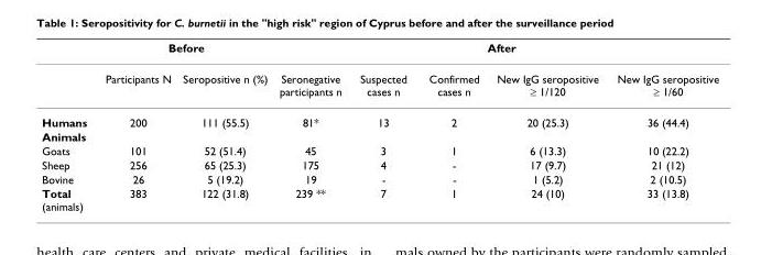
<table><thead><tr><td rowspan="2"></td><td colspan="2">Before</td><td colspan="5">After</td></tr><tr><td>Participants N</td><td>Seropositive n (%)</td><td>Seronegative participants n</td><td>Suspected cases n</td><td>Confirmed cases n</td><td>New IgG seropositive ≥ 1/120</td><td>New IgG seropositive ≥ 1/60</td></tr></thead><tbody><tr><td>Humans</td><td>200</td><td>111 (55.5)</td><td>81*</td><td>13</td><td>2</td><td>20 (25.3)</td><td>36 (44.4)</td></tr><tr><td colspan="8">Animals</td></tr><tr><td>Goats</td><td>101</td><td>52 (51.4)</td><td>45</td><td>3</td><td>1</td><td>6 (13.3)</td><td>10 (22.2)</td></tr><tr><td>Sheep</td><td>256</td><td>65 (25.3)</td><td>175</td><td>4</td><td>-</td><td>17 (9.7)</td><td>21 (12)</td></tr><tr><td>Bovine</td><td>26</td><td>5 (19.2)</td><td>19</td><td>-</td><td>-</td><td>1 (5.2)</td><td>2 (10.5)</td></tr><tr><td>Total (animals)</td><td>383</td><td>122 (31.8)</td><td>239 **</td><td>7</td><td>1</td><td>24 (10)</td><td>33 (13.8)</td></tr></tbody></table>